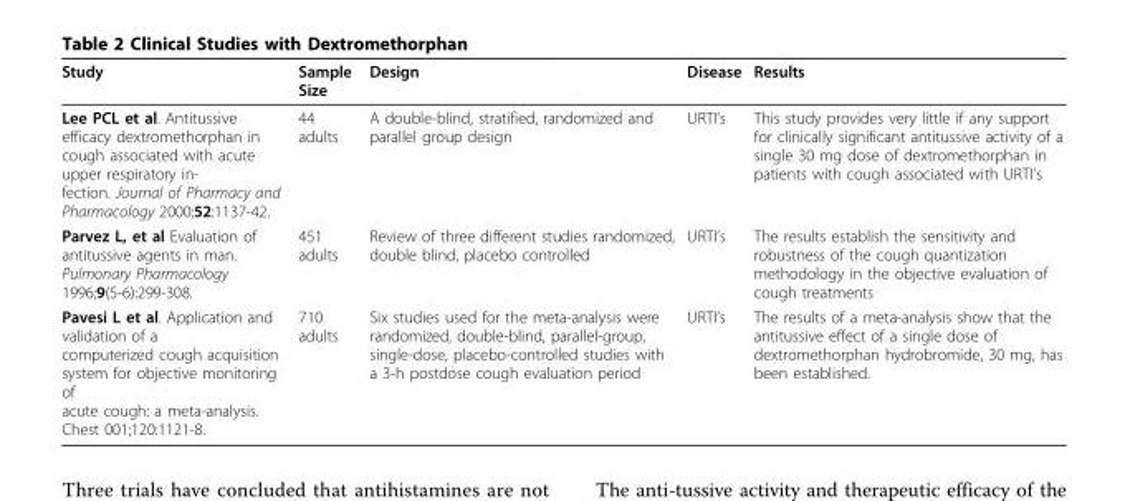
<table><thead><tr><td>Study</td><td>Sample Size</td><td>Design</td><td>Disease</td><td>Results</td></tr></thead><tbody><tr><td>Lee PCL et al. Antitussive efficacy dextromethorphan in cough associated with acute upper respiratory in- fection. Journal of Pharmacy and Pharmacology 2000;52:1137-42.</td><td>44 adults</td><td>A double-blind, stratified, randomized and parallel group design</td><td>URTI’s</td><td>This study provides very little if any support for clinically significant antitussive activity of a single 30 mg dose of dextromethorphan in patients with cough associated with URTI’s</td></tr><tr><td>Parvez L, et al Evaluation of antitussive agents in man. Pulmonary Pharmacology 1996;9(5-6):299-308.</td><td>451 adults</td><td>Review of three different studies randomized, double blind, placebo controlled</td><td>URTI’s</td><td>The results establish the sensitivity and robustness of the cough quantization methodology in the objective evaluation of cough treatments</td></tr><tr><td>Pavesi L et al. Application and validation of a computerized cough acquisition system for objective monitoring of acute cough: a meta-analysis. Chest 001;120:1121-8.</td><td>710 adults</td><td>Six studies used for the meta-analysis were randomized, double-blind, parallel-group, single-dose, placebo-controlled studies with a 3-h postdose cough evaluation period</td><td>URTI’s</td><td>The results of a meta-analysis show that the antitussive effect of a single dose of dextromethorphan hydrobromide, 30 mg, has been established.</td></tr></tbody></table>